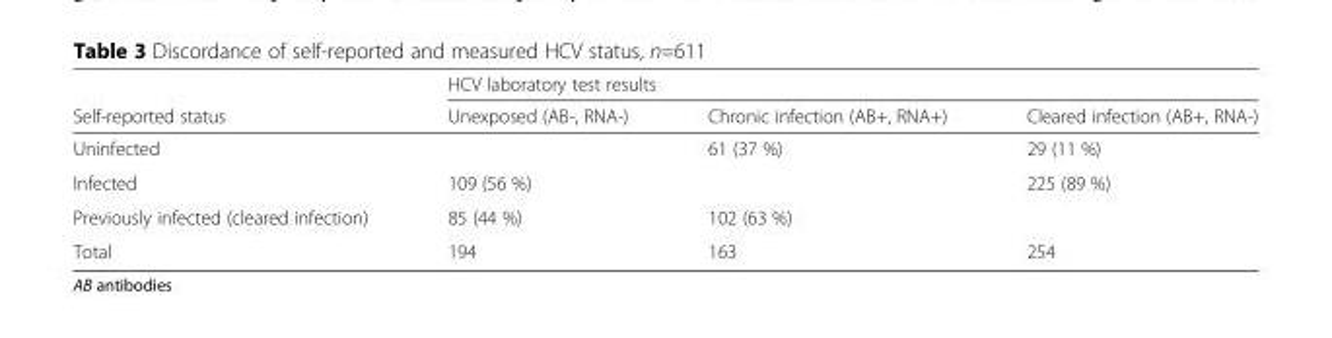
<table><thead><tr><td rowspan="2">Self-reported status</td><td colspan="3">HCV laboratory test results</td></tr><tr><td>Unexposed (AB-, RNA-)</td><td>Chronic infection (AB+, RNA+)</td><td>Cleared infection (AB+, RNA-)</td></tr></thead><tbody><tr><td>Uninfected</td><td></td><td>61 (37 %)</td><td>29 (11 %)</td></tr><tr><td>Infected</td><td>109 (56 %)</td><td></td><td>225 (89 %)</td></tr><tr><td>Previously infected (cleared infection)</td><td>85 (44 %)</td><td>102 (63 %)</td><td></td></tr><tr><td>Total</td><td>194</td><td>163</td><td>254</td></tr></tbody></table>